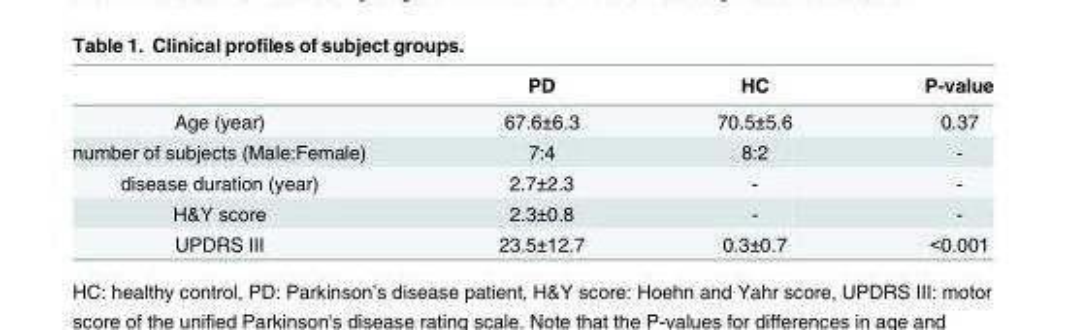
<table><thead><tr><td></td><td>PD</td><td>HC</td><td>P-value</td></tr></thead><tbody><tr><td>Age (year)</td><td>67.6±6.3</td><td>70.5±5.6</td><td>0.37</td></tr><tr><td>number of subjects (Male:Female)</td><td>7:4</td><td>8:2</td><td>-</td></tr><tr><td>disease duration (year)</td><td>2.7±2.3</td><td>-</td><td>-</td></tr><tr><td>H&amp;Y score</td><td>2.3±0.8</td><td>-</td><td>-</td></tr><tr><td>UPDRS III</td><td>23.5±12.7</td><td>0.3±0.7</td><td>&lt;0.001</td></tr></tbody></table>